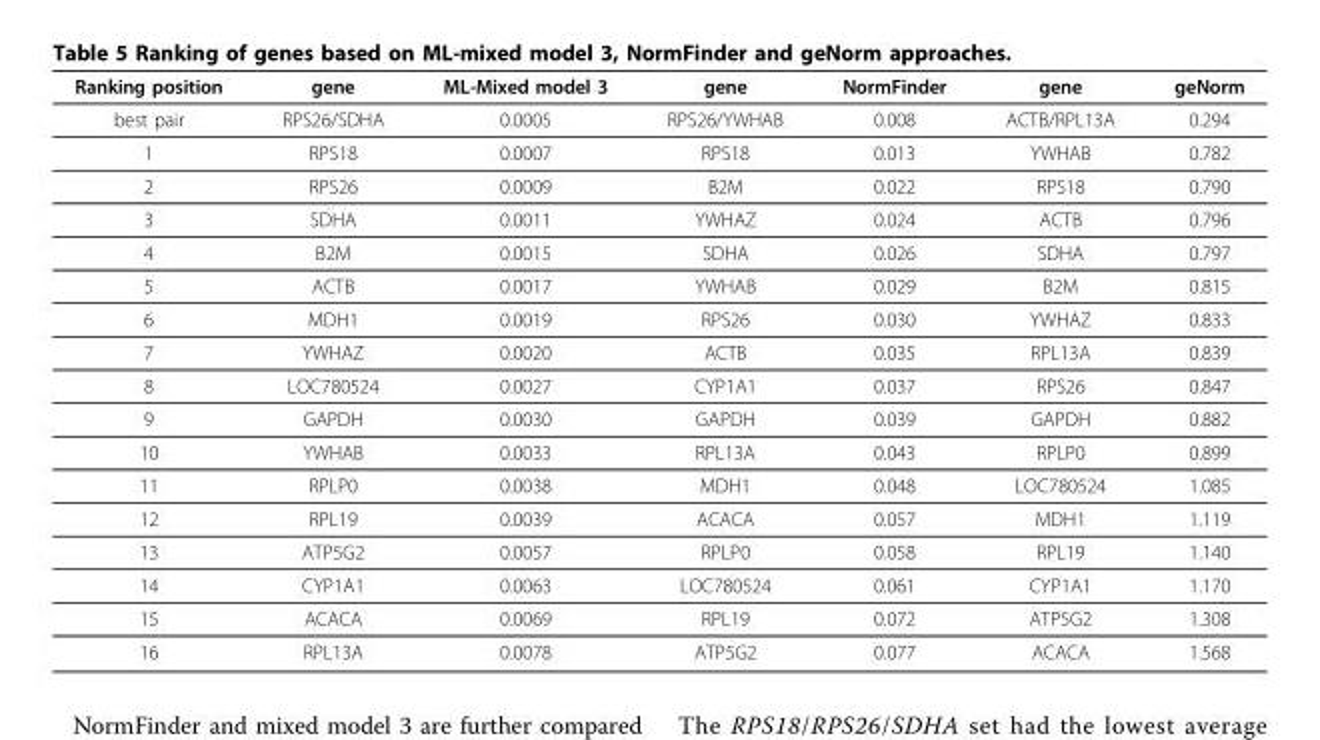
<table><thead><tr><td>Ranking position</td><td>gene</td><td>ML-Mixed model 3</td><td>gene</td><td>NormFinder</td><td>gene</td><td>geNorm</td></tr></thead><tbody><tr><td>best pair</td><td>RPS26/SDHA</td><td>0.0005</td><td>RPS26/YWHAB</td><td>0.008</td><td>ACTB/RPL13A</td><td>0.294</td></tr><tr><td>1</td><td>RPS18</td><td>0.0007</td><td>RPS18</td><td>0.013</td><td>YWHAB</td><td>0.782</td></tr><tr><td>2</td><td>RPS26</td><td>0.0009</td><td>B2M</td><td>0.022</td><td>RPS18</td><td>0.790</td></tr><tr><td>3</td><td>SDHA</td><td>0.0011</td><td>YWHAZ</td><td>0.024</td><td>ACTB</td><td>0.796</td></tr><tr><td>4</td><td>B2M</td><td>0.0015</td><td>SDHA</td><td>0.026</td><td>SDHA</td><td>0.797</td></tr><tr><td>5</td><td>ACTB</td><td>0.0017</td><td>YWHAB</td><td>0.029</td><td>B2M</td><td>0.815</td></tr><tr><td>6</td><td>MDH1</td><td>0.0019</td><td>RPS26</td><td>0.030</td><td>YWHAZ</td><td>0.833</td></tr><tr><td>7</td><td>YWHAZ</td><td>0.0020</td><td>ACTB</td><td>0.035</td><td>RPL13A</td><td>0.839</td></tr><tr><td>8</td><td>LOC780524</td><td>0.0027</td><td>CYP1A1</td><td>0.037</td><td>RPS26</td><td>0.847</td></tr><tr><td>9</td><td>GAPDH</td><td>0.0030</td><td>GAPDH</td><td>0.039</td><td>GAPDH</td><td>0.882</td></tr><tr><td>10</td><td>YWHAB</td><td>0.0033</td><td>RPL13A</td><td>0.043</td><td>RPLP0</td><td>0.899</td></tr><tr><td>11</td><td>RPLP0</td><td>0.0038</td><td>MDH1</td><td>0.048</td><td>LOC780524</td><td>1.085</td></tr><tr><td>12</td><td>RPL19</td><td>0.0039</td><td>ACACA</td><td>0.057</td><td>MDH1</td><td>1.119</td></tr><tr><td>13</td><td>ATP5G2</td><td>0.0057</td><td>RPLP0</td><td>0.058</td><td>RPL19</td><td>1.140</td></tr><tr><td>14</td><td>CYP1A1</td><td>0.0063</td><td>LOC780524</td><td>0.061</td><td>CYP1A1</td><td>1.170</td></tr><tr><td>15</td><td>ACACA</td><td>0.0069</td><td>RPL19</td><td>0.072</td><td>ATP5G2</td><td>1.308</td></tr><tr><td>16</td><td>RPL13A</td><td>0.0078</td><td>ATP5G2</td><td>0.077</td><td>ACACA</td><td>1.568</td></tr></tbody></table>